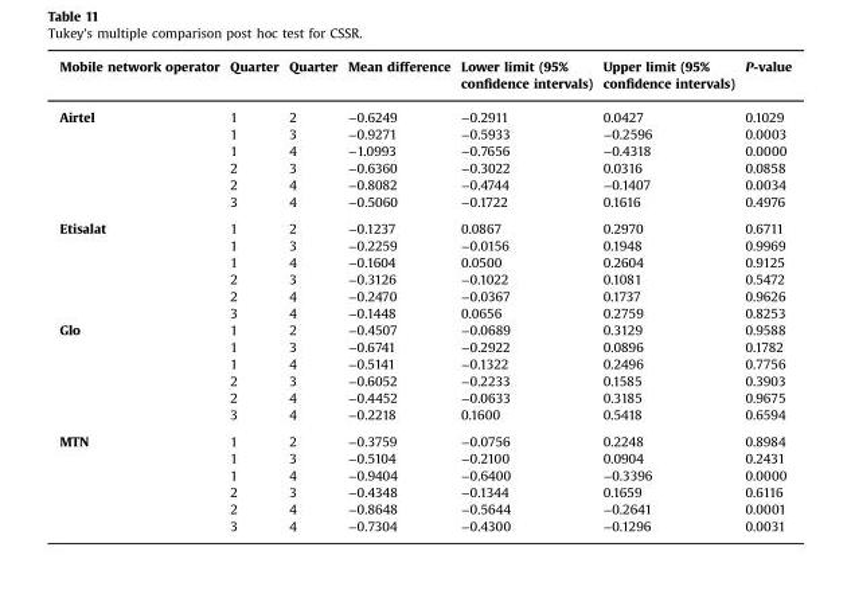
<table><thead><tr><td>Mobile network operator</td><td>Quarter</td><td>Quarter</td><td>Mean difference</td><td>Lower limit (95% confidence intervals)</td><td>Upper limit (95% confidence intervals)</td><td>P-value</td></tr></thead><tbody><tr><td rowspan="6">Airtel</td><td>1</td><td>2</td><td>−0.6249</td><td>−0.2911</td><td>0.0427</td><td>0.1029</td></tr><tr><td>1</td><td>3</td><td>−0.9271</td><td>−0.5933</td><td>−0.2596</td><td>0.0003</td></tr><tr><td>1</td><td>4</td><td>−1.0993</td><td>−0.7656</td><td>−0.4318</td><td>0.0000</td></tr><tr><td>2</td><td>3</td><td>−0.6360</td><td>−0.3022</td><td>0.0316</td><td>0.0858</td></tr><tr><td>2</td><td>4</td><td>−0.8082</td><td>−0.4744</td><td>−0.1407</td><td>0.0034</td></tr><tr><td>3</td><td>4</td><td>−0.5060</td><td>−0.1722</td><td>0.1616</td><td>0.4976</td></tr><tr><td rowspan="6">Etisalat</td><td>1</td><td>2</td><td>−0.1237</td><td>0.0867</td><td>0.2970</td><td>0.6711</td></tr><tr><td>1</td><td>3</td><td>−0.2259</td><td>−0.0156</td><td>0.1948</td><td>0.9969</td></tr><tr><td>1</td><td>4</td><td>−0.1604</td><td>0.0500</td><td>0.2604</td><td>0.9125</td></tr><tr><td>2</td><td>3</td><td>−0.3126</td><td>−0.1022</td><td>0.1081</td><td>0.5472</td></tr><tr><td>2</td><td>4</td><td>−0.2470</td><td>−0.0367</td><td>0.1737</td><td>0.9626</td></tr><tr><td>3</td><td>4</td><td>−0.1448</td><td>0.0656</td><td>0.2759</td><td>0.8253</td></tr><tr><td rowspan="6">Glo</td><td>1</td><td>2</td><td>−0.4507</td><td>−0.0689</td><td>0.3129</td><td>0.9588</td></tr><tr><td>1</td><td>3</td><td>−0.6741</td><td>−0.2922</td><td>0.0896</td><td>0.1782</td></tr><tr><td>1</td><td>4</td><td>−0.5141</td><td>−0.1322</td><td>0.2496</td><td>0.7756</td></tr><tr><td>2</td><td>3</td><td>−0.6052</td><td>−0.2233</td><td>0.1585</td><td>0.3903</td></tr><tr><td>2</td><td>4</td><td>−0.4452</td><td>−0.0633</td><td>0.3185</td><td>0.9675</td></tr><tr><td>3</td><td>4</td><td>−0.2218</td><td>0.1600</td><td>0.5418</td><td>0.6594</td></tr><tr><td rowspan="6">MTN</td><td>1</td><td>2</td><td>−0.3759</td><td>−0.0756</td><td>0.2248</td><td>0.8984</td></tr><tr><td>1</td><td>3</td><td>−0.5104</td><td>−0.2100</td><td>0.0904</td><td>0.2431</td></tr><tr><td>1</td><td>4</td><td>−0.9404</td><td>−0.6400</td><td>−0.3396</td><td>0.0000</td></tr><tr><td>2</td><td>3</td><td>−0.4348</td><td>−0.1344</td><td>0.1659</td><td>0.6116</td></tr><tr><td>2</td><td>4</td><td>−0.8648</td><td>−0.5644</td><td>−0.2641</td><td>0.0001</td></tr><tr><td>3</td><td>4</td><td>−0.7304</td><td>−0.4300</td><td>−0.1296</td><td>0.0031</td></tr></tbody></table>